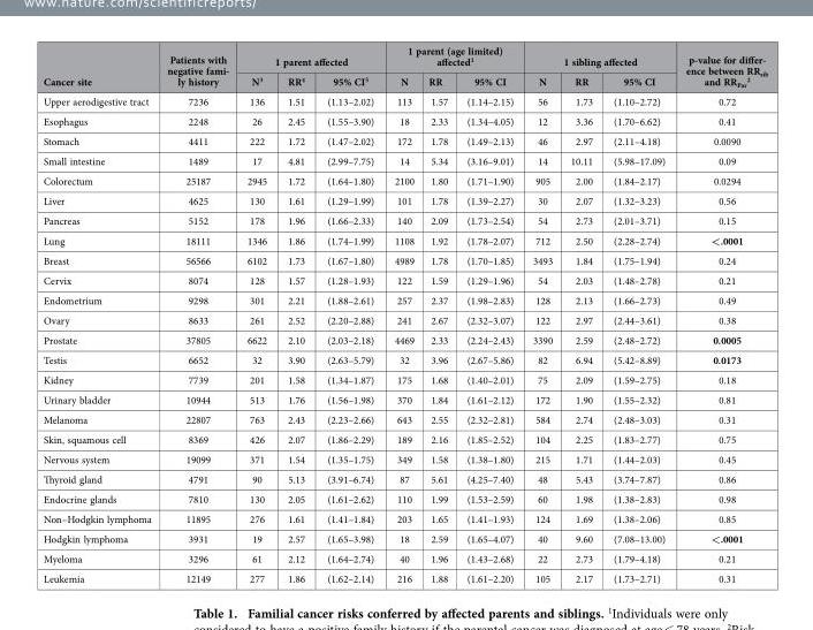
<table><thead><tr><td rowspan="2">Cancer site</td><td rowspan="2">Patients with negative fami- ly history</td><td colspan="3">1 parent affected</td><td colspan="3">1 parent (age limited) affected<sup>1</sup></td><td colspan="3">1 sibling affected</td><td rowspan="2">p-value for differ- ence between RRsib and RRPar 2</td></tr><tr><td>N<sup>3</sup></td><td>RR<sup>4</sup></td><td>95% CI<sup>5</sup></td><td>N</td><td>RR</td><td>95% CI</td><td>N</td><td>RR</td><td>95% CI</td></tr></thead><tbody><tr><td>Upper aerodigestive tract</td><td>7236</td><td>136</td><td>1.51</td><td>(1.13–2.02)</td><td>113</td><td>1.57</td><td>(1.14–2.15)</td><td>56</td><td>1.73</td><td>(1.10–2.72)</td><td>0.72</td></tr><tr><td>Esophagus</td><td>2248</td><td>26</td><td>2.45</td><td>(1.55–3.90)</td><td>18</td><td>2.33</td><td>(1.34–4.05)</td><td>12</td><td>3.36</td><td>(1.70–6.62)</td><td>0.41</td></tr><tr><td>Stomach</td><td>4411</td><td>222</td><td>1.72</td><td>(1.47–2.02)</td><td>172</td><td>1.78</td><td>(1.49–2.13)</td><td>46</td><td>2.97</td><td>(2.11–4.18)</td><td>0.0090</td></tr><tr><td>Small intestine</td><td>1489</td><td>17</td><td>4.81</td><td>(2.99–7.75)</td><td>14</td><td>5.34</td><td>(3.16–9.01)</td><td>14</td><td>10.11</td><td>(5.98–17.09)</td><td>0.09</td></tr><tr><td>Colorectum</td><td>25187</td><td>2945</td><td>1.72</td><td>(1.64–1.80)</td><td>2100</td><td>1.80</td><td>(1.71–1.90)</td><td>905</td><td>2.00</td><td>(1.84–2.17)</td><td>0.0294</td></tr><tr><td>Liver</td><td>4625</td><td>130</td><td>1.61</td><td>(1.29–1.99)</td><td>101</td><td>1.78</td><td>(1.39–2.27)</td><td>30</td><td>2.07</td><td>(1.32–3.23)</td><td>0.56</td></tr><tr><td>Pancreas</td><td>5152</td><td>178</td><td>1.96</td><td>(1.66–2.33)</td><td>140</td><td>2.09</td><td>(1.73–2.54)</td><td>54</td><td>2.73</td><td>(2.01–3.71)</td><td>0.15</td></tr><tr><td>Lung</td><td>18111</td><td>1346</td><td>1.86</td><td>(1.74–1.99)</td><td>1108</td><td>1.92</td><td>(1.78–2.07)</td><td>712</td><td>2.50</td><td>(2.28–2.74)</td><td>&lt;.0001</td></tr><tr><td>Breast</td><td>56566</td><td>6102</td><td>1.73</td><td>(1.67–1.80)</td><td>4989</td><td>1.78</td><td>(1.70–1.85)</td><td>3493</td><td>1.84</td><td>(1.75–1.94)</td><td>0.24</td></tr><tr><td>Cervix</td><td>8074</td><td>128</td><td>1.57</td><td>(1.28–1.93)</td><td>122</td><td>1.59</td><td>(1.29–1.96)</td><td>54</td><td>2.03</td><td>(1.48–2.78)</td><td>0.21</td></tr><tr><td>Endometrium</td><td>9298</td><td>301</td><td>2.21</td><td>(1.88–2.61)</td><td>257</td><td>2.37</td><td>(1.98–2.83)</td><td>128</td><td>2.13</td><td>(1.66–2.73)</td><td>0.49</td></tr><tr><td>Ovary</td><td>8633</td><td>261</td><td>2.52</td><td>(2.20–2.88)</td><td>241</td><td>2.67</td><td>(2.32–3.07)</td><td>122</td><td>2.97</td><td>(2.44–3.61)</td><td>0.38</td></tr><tr><td>Prostate</td><td>37805</td><td>6622</td><td>2.10</td><td>(2.03–2.18)</td><td>4469</td><td>2.33</td><td>(2.24–2.43)</td><td>3390</td><td>2.59</td><td>(2.48–2.72)</td><td>0.0005</td></tr><tr><td>Testis</td><td>6652</td><td>32</td><td>3.90</td><td>(2.63–5.79)</td><td>32</td><td>3.96</td><td>(2.67–5.86)</td><td>82</td><td>6.94</td><td>(5.42–8.89)</td><td>0.0173</td></tr><tr><td>Kidney</td><td>7739</td><td>201</td><td>1.58</td><td>(1.34–1.87)</td><td>175</td><td>1.68</td><td>(1.40–2.01)</td><td>75</td><td>2.09</td><td>(1.59–2.75)</td><td>0.18</td></tr><tr><td>Urinary bladder</td><td>10944</td><td>513</td><td>1.76</td><td>(1.56–1.98)</td><td>370</td><td>1.84</td><td>(1.61–2.12)</td><td>172</td><td>1.90</td><td>(1.55–2.32)</td><td>0.81</td></tr><tr><td>Melanoma</td><td>22807</td><td>763</td><td>2.43</td><td>(2.23–2.66)</td><td>643</td><td>2.55</td><td>(2.32–2.81)</td><td>584</td><td>2.74</td><td>(2.48–3.03)</td><td>0.31</td></tr><tr><td>Skin, squamous cell</td><td>8369</td><td>426</td><td>2.07</td><td>(1.86–2.29)</td><td>189</td><td>2.16</td><td>(1.85–2.52)</td><td>104</td><td>2.25</td><td>(1.83–2.77)</td><td>0.75</td></tr><tr><td>Nervous system</td><td>19099</td><td>371</td><td>1.54</td><td>(1.35–1.75)</td><td>349</td><td>1.58</td><td>(1.38–1.80)</td><td>215</td><td>1.71</td><td>(1.44–2.03)</td><td>0.45</td></tr><tr><td>Thyroid gland</td><td>4791</td><td>90</td><td>5.13</td><td>(3.91–6.74)</td><td>87</td><td>5.61</td><td>(4.25–7.40)</td><td>48</td><td>5.43</td><td>(3.74–7.87)</td><td>0.86</td></tr><tr><td>Endocrine glands</td><td>7810</td><td>130</td><td>2.05</td><td>(1.61–2.62)</td><td>110</td><td>1.99</td><td>(1.53–2.59)</td><td>60</td><td>1.98</td><td>(1.38–2.83)</td><td>0.98</td></tr><tr><td>Non–Hodgkin lymphoma</td><td>11895</td><td>276</td><td>1.61</td><td>(1.41–1.84)</td><td>203</td><td>1.65</td><td>(1.41–1.93)</td><td>124</td><td>1.69</td><td>(1.38–2.06)</td><td>0.85</td></tr><tr><td>Hodgkin lymphoma</td><td>3931</td><td>19</td><td>2.57</td><td>(1.65–3.98)</td><td>18</td><td>2.59</td><td>(1.65–4.07)</td><td>40</td><td>9.60</td><td>(7.08–13.00)</td><td>&lt;.0001</td></tr><tr><td>Myeloma</td><td>3296</td><td>61</td><td>2.12</td><td>(1.64–2.74)</td><td>40</td><td>1.96</td><td>(1.43–2.68)</td><td>22</td><td>2.73</td><td>(1.79–4.18)</td><td>0.21</td></tr><tr><td>Leukemia</td><td>12149</td><td>277</td><td>1.86</td><td>(1.62–2.14)</td><td>216</td><td>1.88</td><td>(1.61–2.20)</td><td>105</td><td>2.17</td><td>(1.73–2.71)</td><td>0.31</td></tr></tbody></table>